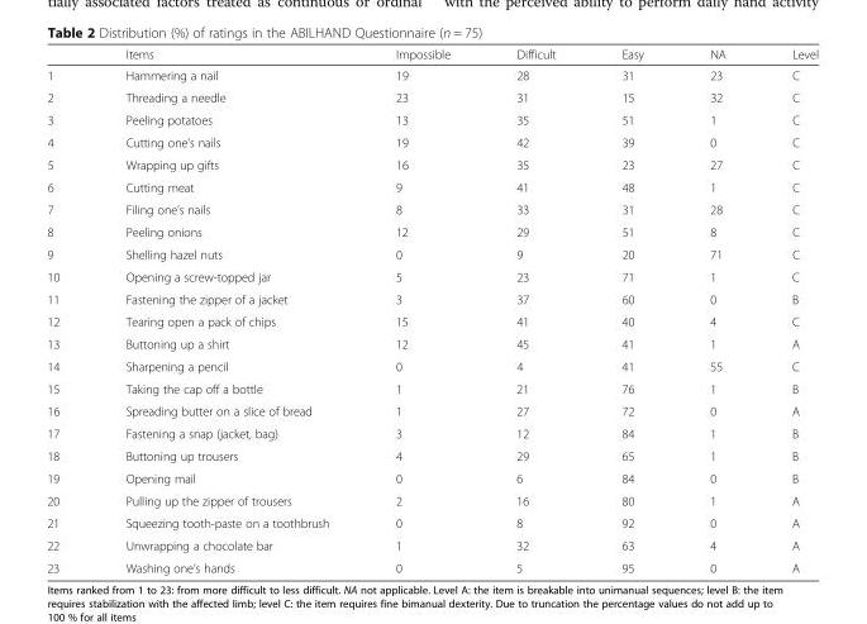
<table><thead><tr><td></td><td>Items</td><td>Impossible</td><td>Difficult</td><td>Easy</td><td>NA</td><td>Level</td></tr></thead><tbody><tr><td>1</td><td>Hammering a nail</td><td>19</td><td>28</td><td>31</td><td>23</td><td>C</td></tr><tr><td>2</td><td>Threading a needle</td><td>23</td><td>31</td><td>15</td><td>32</td><td>C</td></tr><tr><td>3</td><td>Peeling potatoes</td><td>13</td><td>35</td><td>51</td><td>1</td><td>C</td></tr><tr><td>4</td><td>Cutting one’s nails</td><td>19</td><td>42</td><td>39</td><td>0</td><td>C</td></tr><tr><td>5</td><td>Wrapping up gifts</td><td>16</td><td>35</td><td>23</td><td>27</td><td>C</td></tr><tr><td>6</td><td>Cutting meat</td><td>9</td><td>41</td><td>48</td><td>1</td><td>C</td></tr><tr><td>7</td><td>Filing one’s nails</td><td>8</td><td>33</td><td>31</td><td>28</td><td>C</td></tr><tr><td>8</td><td>Peeling onions</td><td>12</td><td>29</td><td>51</td><td>8</td><td>C</td></tr><tr><td>9</td><td>Shelling hazel nuts</td><td>0</td><td>9</td><td>20</td><td>71</td><td>C</td></tr><tr><td>10</td><td>Opening a screw-topped jar</td><td>5</td><td>23</td><td>71</td><td>1</td><td>C</td></tr><tr><td>11</td><td>Fastening the zipper of a jacket</td><td>3</td><td>37</td><td>60</td><td>0</td><td>B</td></tr><tr><td>12</td><td>Tearing open a pack of chips</td><td>15</td><td>41</td><td>40</td><td>4</td><td>C</td></tr><tr><td>13</td><td>Buttoning up a shirt</td><td>12</td><td>45</td><td>41</td><td>1</td><td>A</td></tr><tr><td>14</td><td>Sharpening a pencil</td><td>0</td><td>4</td><td>41</td><td>55</td><td>C</td></tr><tr><td>15</td><td>Taking the cap off a bottle</td><td>1</td><td>21</td><td>76</td><td>1</td><td>B</td></tr><tr><td>16</td><td>Spreading butter on a slice of bread</td><td>1</td><td>27</td><td>72</td><td>0</td><td>A</td></tr><tr><td>17</td><td>Fastening a snap (jacket, bag)</td><td>3</td><td>12</td><td>84</td><td>1</td><td>B</td></tr><tr><td>18</td><td>Buttoning up trousers</td><td>4</td><td>29</td><td>65</td><td>1</td><td>B</td></tr><tr><td>19</td><td>Opening mail</td><td>0</td><td>6</td><td>84</td><td>0</td><td>B</td></tr><tr><td>20</td><td>Pulling up the zipper of trousers</td><td>2</td><td>16</td><td>80</td><td>1</td><td>A</td></tr><tr><td>21</td><td>Squeezing tooth-paste on a toothbrush</td><td>0</td><td>8</td><td>92</td><td>0</td><td>A</td></tr><tr><td>22</td><td>Unwrapping a chocolate bar</td><td>1</td><td>32</td><td>63</td><td>4</td><td>A</td></tr><tr><td>23</td><td>Washing one’s hands</td><td>0</td><td>5</td><td>95</td><td>0</td><td>A</td></tr></tbody></table>